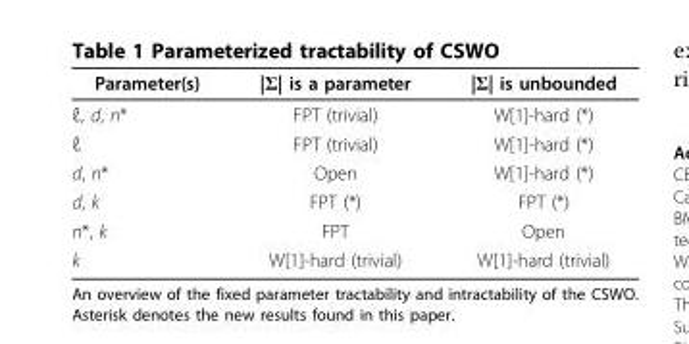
<table><thead><tr><td>Parameter(s)</td><td>|Σ| is a parameter</td><td>|Σ| is unbounded</td></tr></thead><tbody><tr><td>ℓ, d, n*</td><td>FPT (trivial)</td><td>W[1]-hard (*)</td></tr><tr><td>ℓ</td><td>FPT (trivial)</td><td>W[1]-hard (*)</td></tr><tr><td>d, n*</td><td>Open</td><td>W[1]-hard (*)</td></tr><tr><td>d, k</td><td>FPT (*)</td><td>FPT (*)</td></tr><tr><td>n*, k</td><td>FPT</td><td>Open</td></tr><tr><td>k</td><td>W[1]-hard (trivial)</td><td>W[1]-hard (trivial)</td></tr></tbody></table>